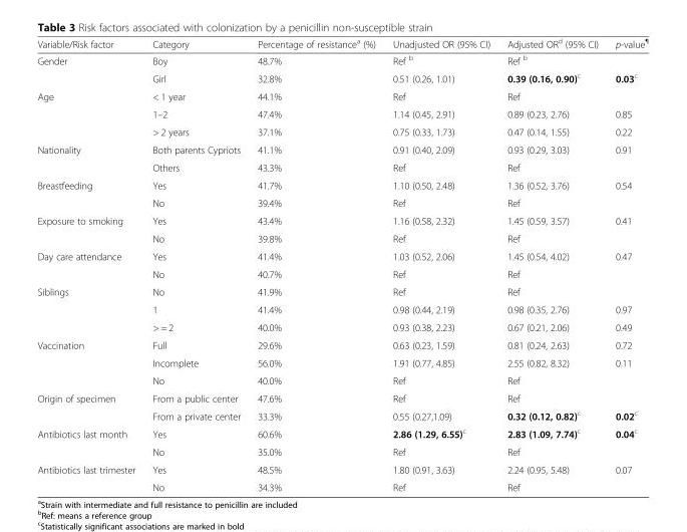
<table><thead><tr><td>Variable/Risk factor</td><td>Category</td><td>Percentage of resistance<sup>a</sup> (%)</td><td>Unadjusted OR (95% CI)</td><td>Adjusted OR<sup>d</sup> (95% CI)</td><td>p-value<sup>¶</sup></td></tr></thead><tbody><tr><td rowspan="2">Gender</td><td>Boy</td><td>48.7%</td><td>Ref <sup>b</sup></td><td>Ref <sup>b</sup></td><td></td></tr><tr><td>Girl</td><td>32.8%</td><td>0.51 (0.26, 1.01)</td><td>0.39 (0.16, 0.90)<sup>c</sup></td><td>0.03<sup>c</sup></td></tr><tr><td rowspan="3">Age</td><td>&lt; 1 year</td><td>44.1%</td><td>Ref</td><td>Ref</td><td></td></tr><tr><td>1–2</td><td>47.4%</td><td>1.14 (0.45, 2.91)</td><td>0.89 (0.23, 2.76)</td><td>0.85</td></tr><tr><td>&gt; 2 years</td><td>37.1%</td><td>0.75 (0.33, 1.73)</td><td>0.47 (0.14, 1.55)</td><td>0.22</td></tr><tr><td rowspan="2">Nationality</td><td>Both parents Cypriots</td><td>41.1%</td><td>0.91 (0.40, 2.09)</td><td>0.93 (0.29, 3.03)</td><td>0.91</td></tr><tr><td>Others</td><td>43.3%</td><td>Ref</td><td>Ref</td><td></td></tr><tr><td rowspan="2">Breastfeeding</td><td>Yes</td><td>41.7%</td><td>1.10 (0.50, 2.48)</td><td>1.36 (0.52, 3.76)</td><td>0.54</td></tr><tr><td>No</td><td>39.4%</td><td>Ref</td><td>Ref</td><td></td></tr><tr><td rowspan="2">Exposure to smoking</td><td>Yes</td><td>43.4%</td><td>1.16 (0.58, 2.32)</td><td>1.45 (0.59, 3.57)</td><td>0.41</td></tr><tr><td>No</td><td>39.8%</td><td>Ref</td><td>Ref</td><td></td></tr><tr><td rowspan="2">Day care attendance</td><td>Yes</td><td>41.4%</td><td>1.03 (0.52, 2.06)</td><td>1.45 (0.54, 4.02)</td><td>0.47</td></tr><tr><td>No</td><td>40.7%</td><td>Ref</td><td>Ref</td><td></td></tr><tr><td rowspan="3">Siblings</td><td>No</td><td>41.9%</td><td>Ref</td><td>Ref</td><td></td></tr><tr><td>1</td><td>41.4%</td><td>0.98 (0.44, 2.19)</td><td>0.98 (0.35, 2.76)</td><td>0.97</td></tr><tr><td>&gt; = 2</td><td>40.0%</td><td>0.93 (0.38, 2.23)</td><td>0.67 (0.21, 2.06)</td><td>0.49</td></tr><tr><td rowspan="3">Vaccination</td><td>Full</td><td>29.6%</td><td>0.63 (0.23, 1.59)</td><td>0.81 (0.24, 2.63)</td><td>0.72</td></tr><tr><td>Incomplete</td><td>56.0%</td><td>1.91 (0.77, 4.85)</td><td>2.55 (0.82, 8.32)</td><td>0.11</td></tr><tr><td>No</td><td>40.0%</td><td>Ref</td><td>Ref</td><td></td></tr><tr><td rowspan="2">Origin of specimen</td><td>From a public center</td><td>47.6%</td><td>Ref</td><td>Ref</td><td></td></tr><tr><td>From a private center</td><td>33.3%</td><td>0.55 (0.27,1.09)</td><td>0.32 (0.12, 0.82)<sup>c</sup></td><td>0.02<sup>c</sup></td></tr><tr><td rowspan="2">Antibiotics last month</td><td>Yes</td><td>60.6%</td><td>2.86 (1.29, 6.55)<sup>c</sup></td><td>2.83 (1.09, 7.74)<sup>c</sup></td><td>0.04<sup>c</sup></td></tr><tr><td>No</td><td>35.0%</td><td>Ref</td><td>Ref</td><td></td></tr><tr><td rowspan="2">Antibiotics last trimester</td><td>Yes</td><td>48.5%</td><td>1.80 (0.91, 3.63)</td><td>2.24 (0.95, 5.48)</td><td>0.07</td></tr><tr><td>No</td><td>34.3%</td><td>Ref</td><td>Ref</td><td></td></tr></tbody></table>